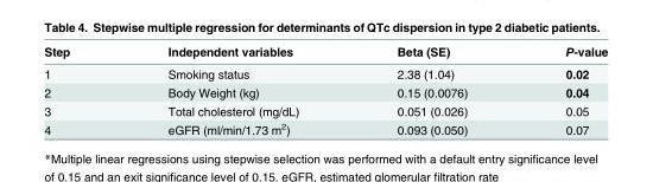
<table><thead><tr><td>Step</td><td>Independent variables</td><td>Beta (SE)</td><td>P-value</td></tr></thead><tbody><tr><td>1</td><td>Smoking status</td><td>2.38 (1.04)</td><td>0.02</td></tr><tr><td>2</td><td>Body Weight (kg)</td><td>0.15 (0.0076)</td><td>0.04</td></tr><tr><td>3</td><td>Total cholesterol (mg/dL)</td><td>0.051 (0.026)</td><td>0.05</td></tr><tr><td>4</td><td>eGFR (ml/min/1.73 m<sup>2</sup>)</td><td>0.093 (0.050)</td><td>0.07</td></tr></tbody></table>